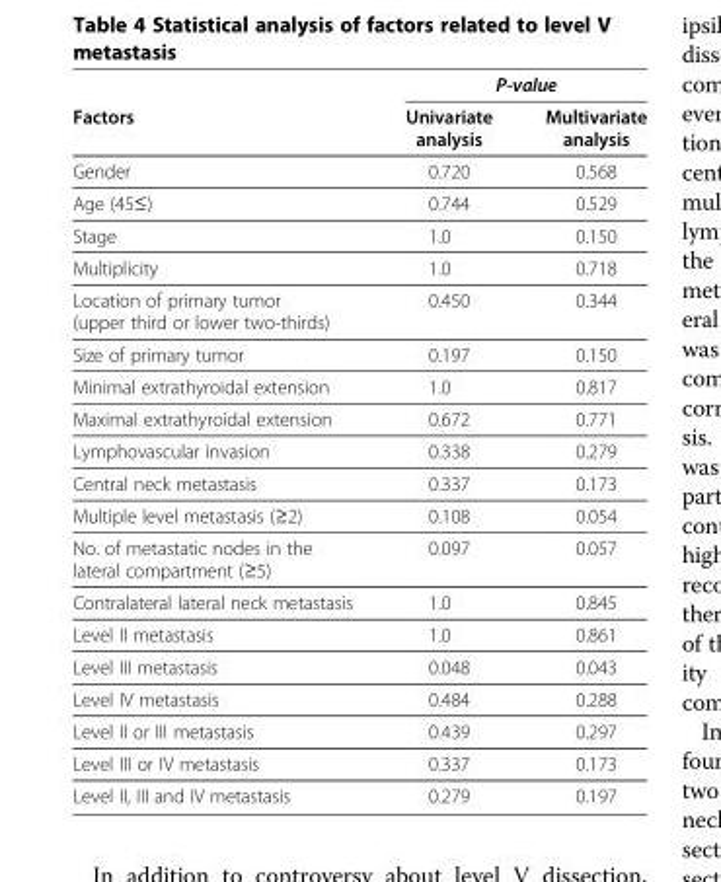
<table><thead><tr><td rowspan="2">Factors</td><td colspan="2">P-value</td></tr><tr><td>Univariate analysis</td><td>Multivariate analysis</td></tr></thead><tbody><tr><td>Gender</td><td>0.720</td><td>0.568</td></tr><tr><td>Age (45≤)</td><td>0.744</td><td>0.529</td></tr><tr><td>Stage</td><td>1.0</td><td>0.150</td></tr><tr><td>Multiplicity</td><td>1.0</td><td>0.718</td></tr><tr><td>Location of primary tumor (upper third or lower two-thirds)</td><td>0.450</td><td>0.344</td></tr><tr><td>Size of primary tumor</td><td>0.197</td><td>0.150</td></tr><tr><td>Minimal extrathyroidal extension</td><td>1.0</td><td>0.817</td></tr><tr><td>Maximal extrathyroidal extension</td><td>0.672</td><td>0.771</td></tr><tr><td>Lymphovascular invasion</td><td>0.338</td><td>0.279</td></tr><tr><td>Central neck metastasis</td><td>0.337</td><td>0.173</td></tr><tr><td>Multiple level metastasis (≥2)</td><td>0.108</td><td>0.054</td></tr><tr><td>No. of metastatic nodes in the lateral compartment (≥5)</td><td>0.097</td><td>0.057</td></tr><tr><td>Contralateral lateral neck metastasis</td><td>1.0</td><td>0.845</td></tr><tr><td>Level II metastasis</td><td>1.0</td><td>0.861</td></tr><tr><td>Level III metastasis</td><td>0.048</td><td>0.043</td></tr><tr><td>Level IV metastasis</td><td>0.484</td><td>0.288</td></tr><tr><td>Level II or III metastasis</td><td>0.439</td><td>0.297</td></tr><tr><td>Level III or IV metastasis</td><td>0.337</td><td>0.173</td></tr><tr><td>Level II, III and IV metastasis</td><td>0.279</td><td>0.197</td></tr></tbody></table>